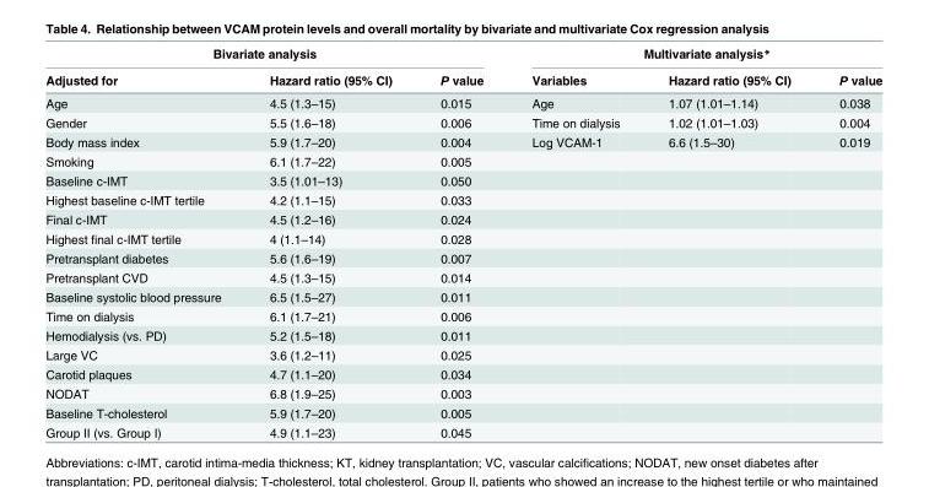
<table><thead><tr><td colspan="3">Bivariate analysis</td><td colspan="3">Multivariate analysis*</td></tr><tr><td>Adjusted for</td><td>Hazard ratio (95% CI)</td><td>P value</td><td>Variables</td><td>Hazard ratio (95% CI)</td><td>P value</td></tr></thead><tbody><tr><td>Age</td><td>4.5 (1.3–15)</td><td>0.015</td><td>Age</td><td>1.07 (1.01–1.14)</td><td>0.038</td></tr><tr><td>Gender</td><td>5.5 (1.6–18)</td><td>0.006</td><td>Time on dialysis</td><td>1.02 (1.01–1.03)</td><td>0.004</td></tr><tr><td>Body mass index</td><td>5.9 (1.7–20)</td><td>0.004</td><td>Log VCAM-1</td><td>6.6 (1.5–30)</td><td>0.019</td></tr><tr><td>Smoking</td><td>6.1 (1.7–22)</td><td>0.005</td><td></td><td></td><td></td></tr><tr><td>Baseline c-IMT</td><td>3.5 (1.01–13)</td><td>0.050</td><td></td><td></td><td></td></tr><tr><td>Highest baseline c-IMT tertile</td><td>4.2 (1.1–15)</td><td>0.033</td><td></td><td></td><td></td></tr><tr><td>Final c-IMT</td><td>4.5 (1.2–16)</td><td>0.024</td><td></td><td></td><td></td></tr><tr><td>Highest final c-IMT tertile</td><td>4 (1.1–14)</td><td>0.028</td><td></td><td></td><td></td></tr><tr><td>Pretransplant diabetes</td><td>5.6 (1.6–19)</td><td>0.007</td><td></td><td></td><td></td></tr><tr><td>Pretransplant CVD</td><td>4.5 (1.3–15)</td><td>0.014</td><td></td><td></td><td></td></tr><tr><td>Baseline systolic blood pressure</td><td>6.5 (1.5–27)</td><td>0.011</td><td></td><td></td><td></td></tr><tr><td>Time on dialysis</td><td>6.1 (1.7–21)</td><td>0.006</td><td></td><td></td><td></td></tr><tr><td>Hemodialysis (vs. PD)</td><td>5.2 (1.5–18)</td><td>0.011</td><td></td><td></td><td></td></tr><tr><td>Large VC</td><td>3.6 (1.2–11)</td><td>0.025</td><td></td><td></td><td></td></tr><tr><td>Carotid plaques</td><td>4.7 (1.1–20)</td><td>0.034</td><td></td><td></td><td></td></tr><tr><td>NODAT</td><td>6.8 (1.9–25)</td><td>0.003</td><td></td><td></td><td></td></tr><tr><td>Baseline T-cholesterol</td><td>5.9 (1.7–20)</td><td>0.005</td><td></td><td></td><td></td></tr><tr><td>Group II (vs. Group I)</td><td>4.9 (1.1–23)</td><td>0.045</td><td></td><td></td><td></td></tr></tbody></table>